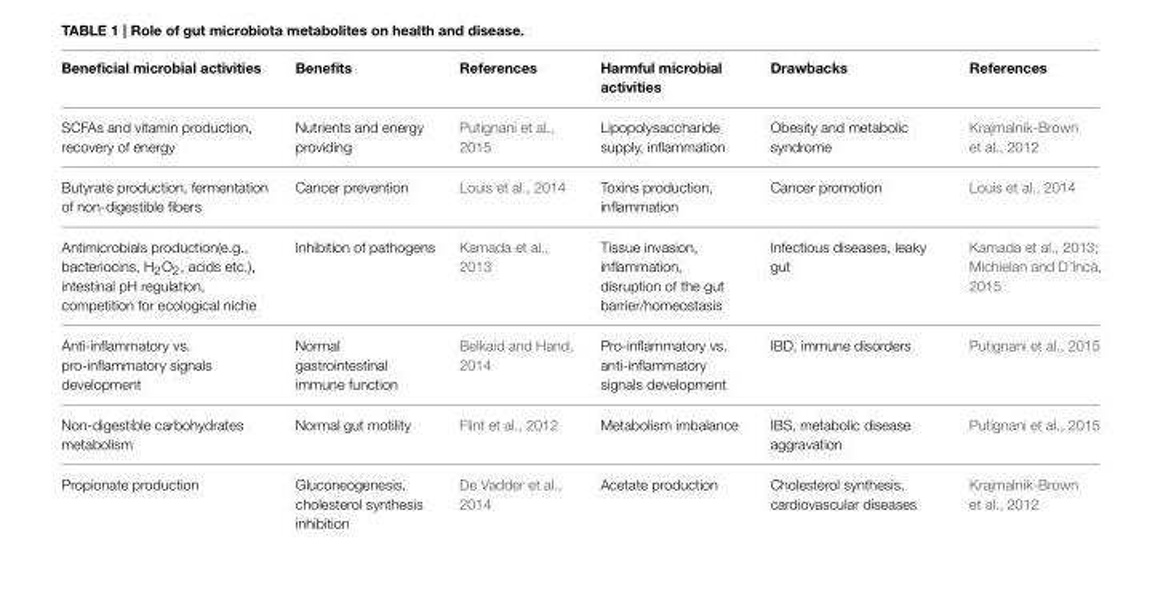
<table><thead><tr><td>Beneficial microbial activities</td><td>Benefits</td><td>References</td><td>Harmful microbial activities</td><td>Drawbacks</td><td>References</td></tr></thead><tbody><tr><td>SCFAs and vitamin production, recovery of energy</td><td>Nutrients and energy providing</td><td>Putignani et al., 2015</td><td>Lipopolysaccharide supply, inflammation</td><td>Obesity and metabolic syndrome</td><td>Krajmalnik-Brown et al., 2012</td></tr><tr><td>Butyrate production, fermentation of non-digestible fibers</td><td>Cancer prevention</td><td>Louis et al., 2014</td><td>Toxins production, inflammation</td><td>Cancer promotion</td><td>Louis et al., 2014</td></tr><tr><td>Antimicrobials production(e.g., bacteriocins, H<sub>2</sub>O<sub>2</sub>, acids etc.), intestinal pH regulation, competition for ecological niche</td><td>Inhibition of pathogens</td><td>Kamada et al., 2013</td><td>Tissue invasion, inflammation, disruption of the gut barrier/homeostasis</td><td>Infectious diseases, leaky gut</td><td>Kamada et al., 2013; Michielan and D’Incà, 2015</td></tr><tr><td>Anti-inflammatory vs. pro-inflammatory signals development</td><td>Normal gastrointestinal immune function</td><td>Belkaid and Hand, 2014</td><td>Pro-inflammatory vs. anti-inflammatory signals development</td><td>IBD, immune disorders</td><td>Putignani et al., 2015</td></tr><tr><td>Non-digestible carbohydrates metabolism</td><td>Normal gut motility</td><td>Flint et al., 2012</td><td>Metabolism imbalance</td><td>IBS, metabolic disease aggravation</td><td>Putignani et al., 2015</td></tr><tr><td>Propionate production</td><td>Gluconeogenesis, cholesterol synthesis inhibition</td><td>De Vadder et al., 2014</td><td>Acetate production</td><td>Cholesterol synthesis, cardiovascular diseases</td><td>Krajmalnik-Brown et al., 2012</td></tr></tbody></table>